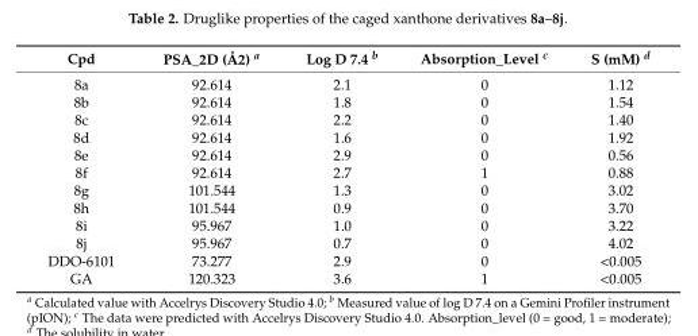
<table><thead><tr><td>Cpd</td><td>PSA_2D (Å2) a</td><td>Log D 7.4 b</td><td>Absorption_Level c</td><td>S (mM) d</td></tr></thead><tbody><tr><td>8a</td><td>92.614</td><td>2.1</td><td>0</td><td>1.12</td></tr><tr><td>8b</td><td>92.614</td><td>1.8</td><td>0</td><td>1.54</td></tr><tr><td>8c</td><td>92.614</td><td>2.2</td><td>0</td><td>1.40</td></tr><tr><td>8d</td><td>92.614</td><td>1.6</td><td>0</td><td>1.92</td></tr><tr><td>8e</td><td>92.614</td><td>2.9</td><td>0</td><td>0.56</td></tr><tr><td>8f</td><td>92.614</td><td>2.7</td><td>1</td><td>0.88</td></tr><tr><td>8g</td><td>101.544</td><td>1.3</td><td>0</td><td>3.02</td></tr><tr><td>8h</td><td>101.544</td><td>0.9</td><td>0</td><td>3.70</td></tr><tr><td>8i</td><td>95.967</td><td>1.0</td><td>0</td><td>3.22</td></tr><tr><td>8j</td><td>95.967</td><td>0.7</td><td>0</td><td>4.02</td></tr><tr><td>DDO-6101</td><td>73.277</td><td>2.9</td><td>0</td><td>&lt;0.005</td></tr><tr><td>GA</td><td>120.323</td><td>3.6</td><td>1</td><td>&lt;0.005</td></tr></tbody></table>